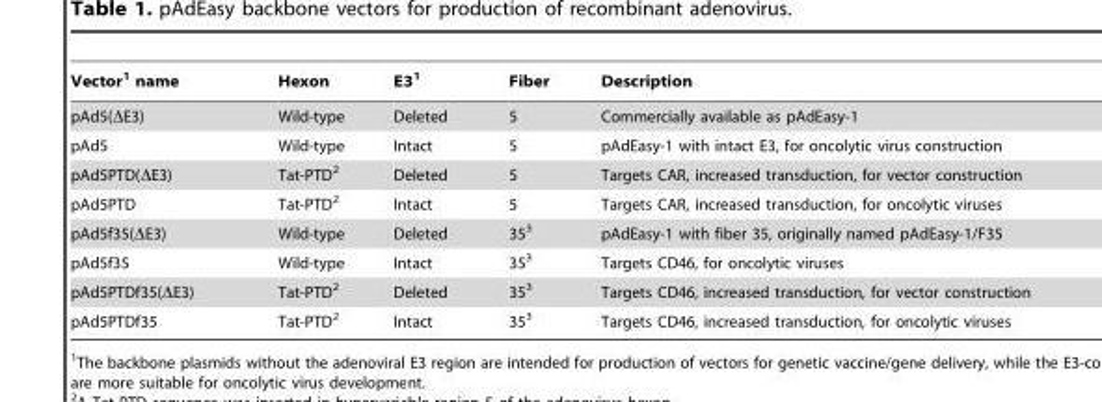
<table><thead><tr><td>Vector<sup>1</sup> name</td><td>Hexon</td><td>E3<sup>1</sup></td><td>Fiber</td><td>Description</td></tr></thead><tbody><tr><td>pAd5(ΔE3)</td><td>Wild-type</td><td>Deleted</td><td>5</td><td>Commercially available as pAdEasy-1</td></tr><tr><td>pAd5</td><td>Wild-type</td><td>Intact</td><td>5</td><td>pAdEasy-1 with intact E3, for oncolytic virus construction</td></tr><tr><td>pAd5PTD(ΔE3)</td><td>Tat-PTD<sup>2</sup></td><td>Deleted</td><td>5</td><td>Targets CAR, increased transduction, for vector construction</td></tr><tr><td>pAd5PTD</td><td>Tat-PTD<sup>2</sup></td><td>Intact</td><td>5</td><td>Targets CAR, increased transduction, for oncolytic viruses</td></tr><tr><td>pAd5f35(ΔE3)</td><td>Wild-type</td><td>Deleted</td><td>35<sup>3</sup></td><td>pAdEasy-1 with fiber 35, originally named pAdEasy-1/F35</td></tr><tr><td>pAd5f35</td><td>Wild-type</td><td>Intact</td><td>35<sup>3</sup></td><td>Targets CD46, for oncolytic viruses</td></tr><tr><td>pAd5PTDf35(ΔE3)</td><td>Tat-PTD<sup>2</sup></td><td>Deleted</td><td>35<sup>3</sup></td><td>Targets CD46, increased transduction, for vector construction</td></tr><tr><td>pAd5PTDf35</td><td>Tat-PTD<sup>2</sup></td><td>Intact</td><td>35<sup>3</sup></td><td>Targets CD46, increased transduction, for oncolytic viruses</td></tr></tbody></table>